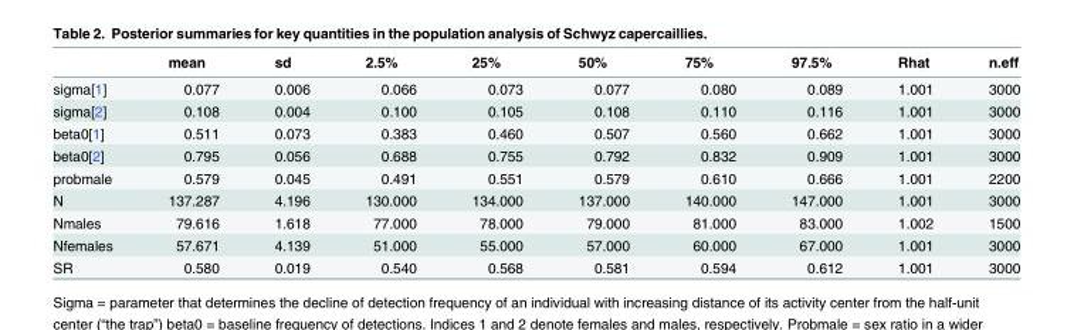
<table><thead><tr><td></td><td>mean</td><td>sd</td><td>2.5%</td><td>25%</td><td>50%</td><td>75%</td><td>97.5%</td><td>Rhat</td><td>n.eff</td></tr></thead><tbody><tr><td>sigma[1]</td><td>0.077</td><td>0.006</td><td>0.066</td><td>0.073</td><td>0.077</td><td>0.080</td><td>0.089</td><td>1.001</td><td>3000</td></tr><tr><td>sigma[2]</td><td>0.108</td><td>0.004</td><td>0.100</td><td>0.105</td><td>0.108</td><td>0.110</td><td>0.116</td><td>1.001</td><td>3000</td></tr><tr><td>beta0[1]</td><td>0.511</td><td>0.073</td><td>0.383</td><td>0.460</td><td>0.507</td><td>0.560</td><td>0.662</td><td>1.001</td><td>3000</td></tr><tr><td>beta0[2]</td><td>0.795</td><td>0.056</td><td>0.688</td><td>0.755</td><td>0.792</td><td>0.832</td><td>0.909</td><td>1.001</td><td>3000</td></tr><tr><td>probmale</td><td>0.579</td><td>0.045</td><td>0.491</td><td>0.551</td><td>0.579</td><td>0.610</td><td>0.666</td><td>1.001</td><td>2200</td></tr><tr><td>N</td><td>137.287</td><td>4.196</td><td>130.000</td><td>134.000</td><td>137.000</td><td>140.000</td><td>147.000</td><td>1.001</td><td>3000</td></tr><tr><td>Nmales</td><td>79.616</td><td>1.618</td><td>77.000</td><td>78.000</td><td>79.000</td><td>81.000</td><td>83.000</td><td>1.002</td><td>1500</td></tr><tr><td>Nfemales</td><td>57.671</td><td>4.139</td><td>51.000</td><td>55.000</td><td>57.000</td><td>60.000</td><td>67.000</td><td>1.001</td><td>3000</td></tr><tr><td>SR</td><td>0.580</td><td>0.019</td><td>0.540</td><td>0.568</td><td>0.581</td><td>0.594</td><td>0.612</td><td>1.001</td><td>3000</td></tr></tbody></table>